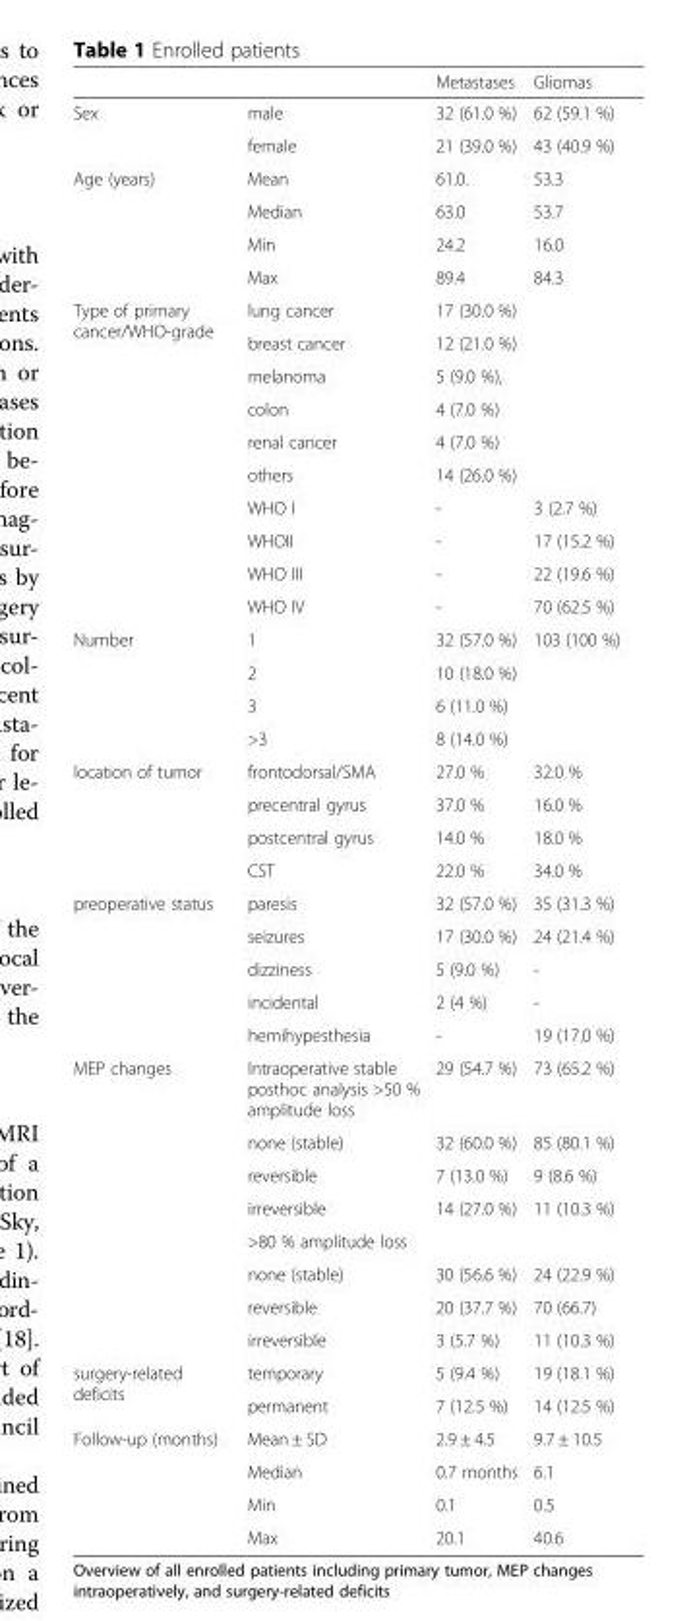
<table><thead><tr><td></td><td></td><td>Metastases</td><td>Gliomas</td></tr></thead><tbody><tr><td rowspan="2">Sex</td><td>male</td><td>32 (61.0 %)</td><td>62 (59.1 %)</td></tr><tr><td>female</td><td>21 (39.0 %)</td><td>43 (40.9 %)</td></tr><tr><td rowspan="4">Age (years)</td><td>Mean</td><td>61.0.</td><td>53.3</td></tr><tr><td>Median</td><td>63.0</td><td>53.7</td></tr><tr><td>Min</td><td>24.2</td><td>16.0</td></tr><tr><td>Max</td><td>89.4</td><td>84.3</td></tr><tr><td rowspan="10">Type of primary cancer/WHO-grade</td><td>lung cancer</td><td>17 (30.0 %)</td><td></td></tr><tr><td>breast cancer</td><td>12 (21.0 %)</td><td></td></tr><tr><td>melanoma</td><td>5 (9.0 %),</td><td></td></tr><tr><td>colon</td><td>4 (7.0 %)</td><td></td></tr><tr><td>renal cancer</td><td>4 (7.0 %)</td><td></td></tr><tr><td>others</td><td>14 (26.0 %)</td><td></td></tr><tr><td>WHO I</td><td>-</td><td>3 (2.7 %)</td></tr><tr><td>WHOII</td><td>-</td><td>17 (15.2 %)</td></tr><tr><td>WHO III</td><td>-</td><td>22 (19.6 %)</td></tr><tr><td>WHO IV</td><td>-</td><td>70 (62.5 %)</td></tr><tr><td rowspan="4">Number</td><td>1</td><td>32 (57.0 %)</td><td rowspan="4">103 (100 %)</td></tr><tr><td>2</td><td>10 (18.0 %)</td></tr><tr><td>3</td><td>6 (11.0 %)</td></tr><tr><td>&gt;3</td><td>8 (14.0 %)</td></tr><tr><td rowspan="4">location of tumor</td><td>frontodorsal/SMA</td><td>27.0 %</td><td>32.0 %</td></tr><tr><td>precentral gyrus</td><td>37.0 %</td><td>16.0 %</td></tr><tr><td>postcentral gyrus</td><td>14.0 %</td><td>18.0 %</td></tr><tr><td>CST</td><td>22.0 %</td><td>34.0 %</td></tr><tr><td rowspan="5">preoperative status</td><td>paresis</td><td>32 (57.0 %)</td><td>35 (31.3 %)</td></tr><tr><td>seizures</td><td>17 (30.0 %)</td><td>24 (21.4 %)</td></tr><tr><td>dizziness</td><td>5 (9.0 %)</td><td>-</td></tr><tr><td>incidental</td><td>2 (4 %)</td><td>-</td></tr><tr><td>hemihypesthesia</td><td>-</td><td>19 (17.0 %)</td></tr><tr><td rowspan="8">MEP changes</td><td>Intraoperative stable posthoc analysis &gt;50 % amplitude loss</td><td>29 (54.7 %)</td><td>73 (65.2 %)</td></tr><tr><td>none (stable)</td><td>32 (60.0 %)</td><td>85 (80.1 %)</td></tr><tr><td>reversible</td><td>7 (13.0 %)</td><td>9 (8.6 %)</td></tr><tr><td>irreversible</td><td>14 (27.0 %)</td><td>11 (10.3 %)</td></tr><tr><td colspan="3">&gt;80 % amplitude loss</td></tr><tr><td>none (stable)</td><td>30 (56.6 %)</td><td>24 (22.9 %)</td></tr><tr><td>reversible</td><td>20 (37.7 %)</td><td>70 (66.7)</td></tr><tr><td>irreversible</td><td>3 (5.7 %)</td><td>11 (10.3 %)</td></tr><tr><td rowspan="2">surgery-related deficits</td><td>temporary</td><td>5 (9.4 %)</td><td>19 (18.1 %)</td></tr><tr><td>permanent</td><td>7 (12.5 %)</td><td>14 (12.5 %)</td></tr><tr><td rowspan="4">Follow-up (months)</td><td>Mean ± SD</td><td>2.9 ± 4.5</td><td>9.7 ± 10.5</td></tr><tr><td>Median</td><td>0.7 months</td><td>6.1</td></tr><tr><td>Min</td><td>0.1</td><td>0.5</td></tr><tr><td>Max</td><td>20.1</td><td>40.6</td></tr></tbody></table>